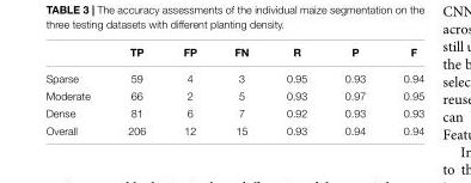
<table><thead><tr><td></td><td>TP</td><td>FP</td><td>FN</td><td>R</td><td>P</td><td>F</td></tr></thead><tbody><tr><td>Sparse</td><td>59</td><td>4</td><td>3</td><td>0.95</td><td>0.93</td><td>0.94</td></tr><tr><td>Moderate</td><td>66</td><td>2</td><td>5</td><td>0.93</td><td>0.97</td><td>0.95</td></tr><tr><td>Dense</td><td>81</td><td>6</td><td>7</td><td>0.92</td><td>0.93</td><td>0.93</td></tr><tr><td>Overall</td><td>206</td><td>12</td><td>15</td><td>0.93</td><td>0.94</td><td>0.94</td></tr></tbody></table>